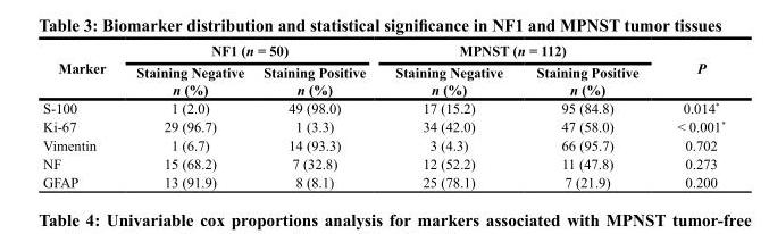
<table><thead><tr><td rowspan="2">Marker</td><td colspan="2">NF1 (n = 50)</td><td colspan="2">MPNST (n = 112)</td><td rowspan="2">P</td></tr><tr><td>Staining Negative n (%)</td><td>Staining Positive n (%)</td><td>Staining Negative n (%)</td><td>Staining Positive n (%)</td></tr></thead><tbody><tr><td>S-100</td><td>1 (2.0)</td><td>49 (98.0)</td><td>17 (15.2)</td><td>95 (84.8)</td><td>0.014*</td></tr><tr><td>Ki-67</td><td>29 (96.7)</td><td>1 (3.3)</td><td>34 (42.0)</td><td>47 (58.0)</td><td>&lt; 0.001*</td></tr><tr><td>Vimentin</td><td>1 (6.7)</td><td>14 (93.3)</td><td>3 (4.3)</td><td>66 (95.7)</td><td>0.702</td></tr><tr><td>NF</td><td>15 (68.2)</td><td>7 (32.8)</td><td>12 (52.2)</td><td>11 (47.8)</td><td>0.273</td></tr><tr><td>GFAP</td><td>13 (91.9)</td><td>8 (8.1)</td><td>25 (78.1)</td><td>7 (21.9)</td><td>0.200</td></tr></tbody></table>